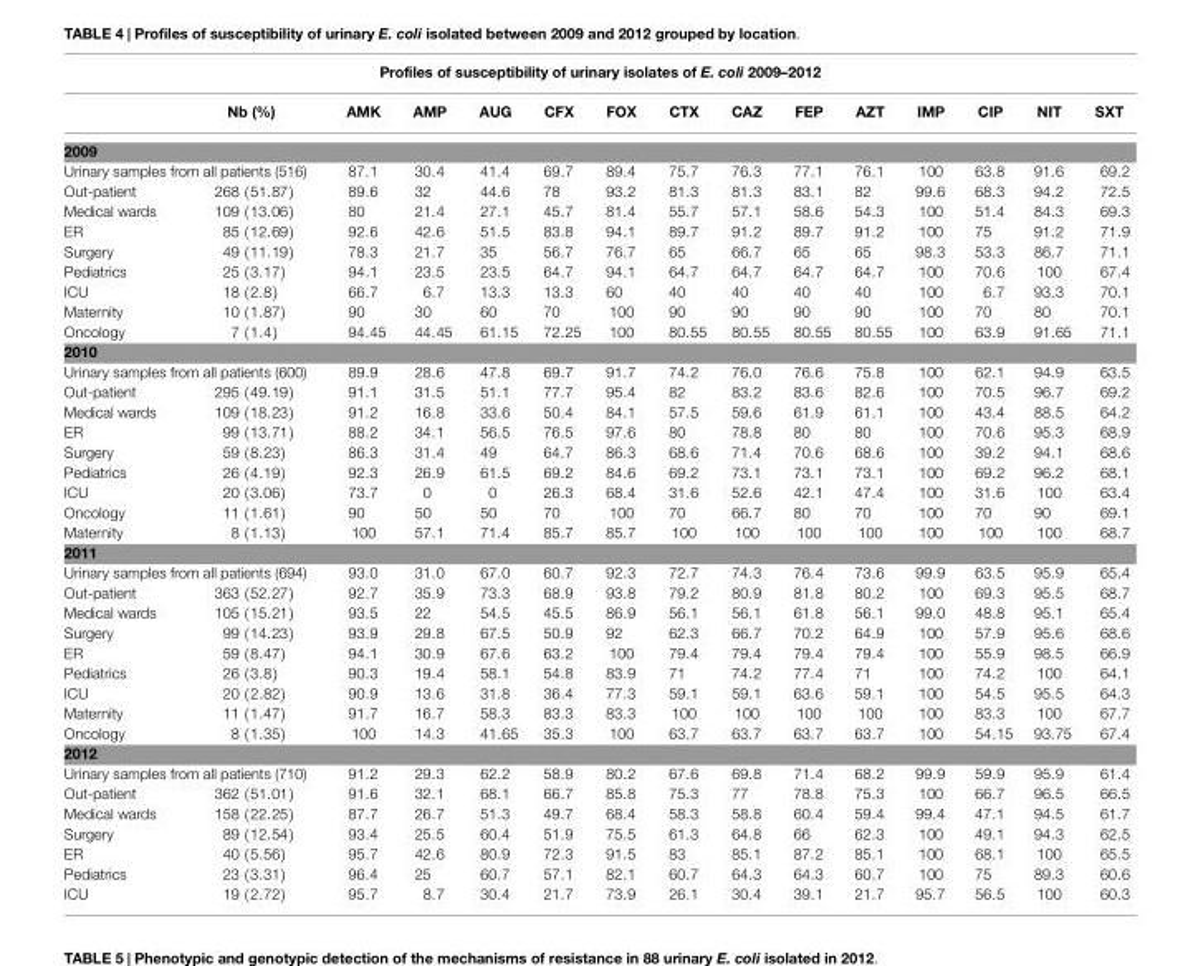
<table><thead><tr><td colspan="15">Profiles of susceptibility of urinary isolates of E. coli 2009–2012</td></tr><tr><td></td><td>Nb (%)</td><td>AMK</td><td>AMP</td><td>AUG</td><td>CFX</td><td>FOX</td><td>CTX</td><td>CAZ</td><td>FEP</td><td>AZT</td><td>IMP</td><td>CIP</td><td>NIT</td><td>SXT</td></tr></thead><tbody><tr><td colspan="15">2009</td></tr><tr><td colspan="2">Urinary samples from all patients (516)</td><td>87.1</td><td>30.4</td><td>41.4</td><td>69.7</td><td>89.4</td><td>75.7</td><td>76.3</td><td>77.1</td><td>76.1</td><td>100</td><td>63.8</td><td>91.6</td><td>69.2</td></tr><tr><td>Out-patient</td><td>268 (51.87)</td><td>89.6</td><td>32</td><td>44.6</td><td>78</td><td>93.2</td><td>81.3</td><td>81.3</td><td>83.1</td><td>82</td><td>99.6</td><td>68.3</td><td>94.2</td><td>72.5</td></tr><tr><td>Medical wards</td><td>109 (13.06)</td><td>80</td><td>21.4</td><td>27.1</td><td>45.7</td><td>81.4</td><td>55.7</td><td>57.1</td><td>58.6</td><td>54.3</td><td>100</td><td>51.4</td><td>84.3</td><td>69.3</td></tr><tr><td>ER</td><td>85 (12.69)</td><td>92.6</td><td>42.6</td><td>51.5</td><td>83.8</td><td>94.1</td><td>89.7</td><td>91.2</td><td>89.7</td><td>91.2</td><td>100</td><td>75</td><td>91.2</td><td>71.9</td></tr><tr><td>Surgery</td><td>49 (11.19)</td><td>78.3</td><td>21.7</td><td>35</td><td>56.7</td><td>76.7</td><td>65</td><td>66.7</td><td>65</td><td>65</td><td>98.3</td><td>53.3</td><td>86.7</td><td>71.1</td></tr><tr><td>Pediatrics</td><td>25 (3.17)</td><td>94.1</td><td>23.5</td><td>23.5</td><td>64.7</td><td>94.1</td><td>64.7</td><td>64.7</td><td>64.7</td><td>64.7</td><td>100</td><td>70.6</td><td>100</td><td>67.4</td></tr><tr><td>ICU</td><td>18 (2.8)</td><td>66.7</td><td>6.7</td><td>13.3</td><td>13.3</td><td>60</td><td>40</td><td>40</td><td>40</td><td>40</td><td>100</td><td>6.7</td><td>93.3</td><td>70.1</td></tr><tr><td>Maternity</td><td>10 (1.87)</td><td>90</td><td>30</td><td>60</td><td>70</td><td>100</td><td>90</td><td>90</td><td>90</td><td>90</td><td>100</td><td>70</td><td>80</td><td>70.1</td></tr><tr><td>Oncology</td><td>7 (1.4)</td><td>94.45</td><td>44.45</td><td>61.15</td><td>72.25</td><td>100</td><td>80.55</td><td>80.55</td><td>80.55</td><td>80.55</td><td>100</td><td>63.9</td><td>91.65</td><td>71.1</td></tr><tr><td colspan="15">2010</td></tr><tr><td colspan="2">Urinary samples from all patients (600)</td><td>89.9</td><td>28.6</td><td>47.8</td><td>69.7</td><td>91.7</td><td>74.2</td><td>76.0</td><td>76.6</td><td>75.8</td><td>100</td><td>62.1</td><td>94.9</td><td>63.5</td></tr><tr><td>Out-patient</td><td>295 (49.19)</td><td>91.1</td><td>31.5</td><td>51.1</td><td>77.7</td><td>95.4</td><td>82</td><td>83.2</td><td>83.6</td><td>82.6</td><td>100</td><td>70.5</td><td>96.7</td><td>69.2</td></tr><tr><td>Medical wards</td><td>109 (18.23)</td><td>91.2</td><td>16.8</td><td>33.6</td><td>50.4</td><td>84.1</td><td>57.5</td><td>59.6</td><td>61.9</td><td>61.1</td><td>100</td><td>43.4</td><td>88.5</td><td>64.2</td></tr><tr><td>ER</td><td>99 (13.71)</td><td>88.2</td><td>34.1</td><td>56.5</td><td>76.5</td><td>97.6</td><td>80</td><td>78.8</td><td>80</td><td>80</td><td>100</td><td>70.6</td><td>95.3</td><td>68.9</td></tr><tr><td>Surgery</td><td>59 (8.23)</td><td>86.3</td><td>31.4</td><td>49</td><td>64.7</td><td>86.3</td><td>68.6</td><td>71.4</td><td>70.6</td><td>68.6</td><td>100</td><td>39.2</td><td>94.1</td><td>68.6</td></tr><tr><td>Pediatrics</td><td>26 (4.19)</td><td>92.3</td><td>26.9</td><td>61.5</td><td>69.2</td><td>84.6</td><td>69.2</td><td>73.1</td><td>73.1</td><td>73.1</td><td>100</td><td>69.2</td><td>96.2</td><td>68.1</td></tr><tr><td>ICU</td><td>20 (3.06)</td><td>73.7</td><td>0</td><td>0</td><td>26.3</td><td>68.4</td><td>31.6</td><td>52.6</td><td>42.1</td><td>47.4</td><td>100</td><td>31.6</td><td>100</td><td>63.4</td></tr><tr><td>Oncology</td><td>11 (1.61)</td><td>90</td><td>50</td><td>50</td><td>70</td><td>100</td><td>70</td><td>66.7</td><td>80</td><td>70</td><td>100</td><td>70</td><td>90</td><td>69.1</td></tr><tr><td>Maternity</td><td>8 (1.13)</td><td>100</td><td>57.1</td><td>71.4</td><td>85.7</td><td>85.7</td><td>100</td><td>100</td><td>100</td><td>100</td><td>100</td><td>100</td><td>100</td><td>68.7</td></tr><tr><td colspan="15">2011</td></tr><tr><td colspan="2">Urinary samples from all patients (694)</td><td>93.0</td><td>31.0</td><td>67.0</td><td>60.7</td><td>92.3</td><td>72.7</td><td>74.3</td><td>76.4</td><td>73.6</td><td>99.9</td><td>63.5</td><td>95.9</td><td>65.4</td></tr><tr><td>Out-patient</td><td>363 (52.27)</td><td>92.7</td><td>35.9</td><td>73.3</td><td>68.9</td><td>93.8</td><td>79.2</td><td>80.9</td><td>81.8</td><td>80.2</td><td>100</td><td>69.3</td><td>95.5</td><td>68.7</td></tr><tr><td>Medical wards</td><td>105 (15.21)</td><td>93.5</td><td>22</td><td>54.5</td><td>45.5</td><td>86.9</td><td>56.1</td><td>56.1</td><td>61.8</td><td>56.1</td><td>99.0</td><td>48.8</td><td>95.1</td><td>65.4</td></tr><tr><td>Surgery</td><td>99 (14.23)</td><td>93.9</td><td>29.8</td><td>67.5</td><td>50.9</td><td>92</td><td>62.3</td><td>66.7</td><td>70.2</td><td>64.9</td><td>100</td><td>57.9</td><td>95.6</td><td>68.6</td></tr><tr><td>ER</td><td>59 (8.47)</td><td>94.1</td><td>30.9</td><td>67.6</td><td>63.2</td><td>100</td><td>79.4</td><td>79.4</td><td>79.4</td><td>79.4</td><td>100</td><td>55.9</td><td>98.5</td><td>66.9</td></tr><tr><td>Pediatrics</td><td>26 (3.8)</td><td>90.3</td><td>19.4</td><td>58.1</td><td>54.8</td><td>83.9</td><td>71</td><td>74.2</td><td>77.4</td><td>71</td><td>100</td><td>74.2</td><td>100</td><td>64.1</td></tr><tr><td>ICU</td><td>20 (2.82)</td><td>90.9</td><td>13.6</td><td>31.8</td><td>36.4</td><td>77.3</td><td>59.1</td><td>59.1</td><td>63.6</td><td>59.1</td><td>100</td><td>54.5</td><td>95.5</td><td>64.3</td></tr><tr><td>Maternity</td><td>11 (1.47)</td><td>91.7</td><td>16.7</td><td>58.3</td><td>83.3</td><td>83.3</td><td>100</td><td>100</td><td>100</td><td>100</td><td>100</td><td>83.3</td><td>100</td><td>67.7</td></tr><tr><td>Oncology</td><td>8 (1.35)</td><td>100</td><td>14.3</td><td>41.65</td><td>35.3</td><td>100</td><td>63.7</td><td>63.7</td><td>63.7</td><td>63.7</td><td>100</td><td>54.15</td><td>93.75</td><td>67.4</td></tr><tr><td colspan="15">2012</td></tr><tr><td colspan="2">Urinary samples from all patients (710)</td><td>91.2</td><td>29.3</td><td>62.2</td><td>58.9</td><td>80.2</td><td>67.6</td><td>69.8</td><td>71.4</td><td>68.2</td><td>99.9</td><td>59.9</td><td>95.9</td><td>61.4</td></tr><tr><td>Out-patient</td><td>362 (51.01)</td><td>91.6</td><td>32.1</td><td>68.1</td><td>66.7</td><td>85.8</td><td>75.3</td><td>77</td><td>78.8</td><td>75.3</td><td>100</td><td>66.7</td><td>96.5</td><td>66.5</td></tr><tr><td>Medical wards</td><td>158 (22.25)</td><td>87.7</td><td>26.7</td><td>51.3</td><td>49.7</td><td>68.4</td><td>58.3</td><td>58.8</td><td>60.4</td><td>59.4</td><td>99.4</td><td>47.1</td><td>94.5</td><td>61.7</td></tr><tr><td>Surgery</td><td>89 (12.54)</td><td>93.4</td><td>25.5</td><td>60.4</td><td>51.9</td><td>75.5</td><td>61.3</td><td>64.8</td><td>66</td><td>62.3</td><td>100</td><td>49.1</td><td>94.3</td><td>62.5</td></tr><tr><td>ER</td><td>40 (5.56)</td><td>95.7</td><td>42.6</td><td>80.9</td><td>72.3</td><td>91.5</td><td>83</td><td>85.1</td><td>87.2</td><td>85.1</td><td>100</td><td>68.1</td><td>100</td><td>65.5</td></tr><tr><td>Pediatrics</td><td>23 (3.31)</td><td>96.4</td><td>25</td><td>60.7</td><td>57.1</td><td>82.1</td><td>60.7</td><td>64.3</td><td>64.3</td><td>60.7</td><td>100</td><td>75</td><td>89.3</td><td>60.6</td></tr><tr><td>ICU</td><td>19 (2.72)</td><td>95.7</td><td>8.7</td><td>30.4</td><td>21.7</td><td>73.9</td><td>26.1</td><td>30.4</td><td>39.1</td><td>21.7</td><td>95.7</td><td>56.5</td><td>100</td><td>60.3</td></tr></tbody></table>